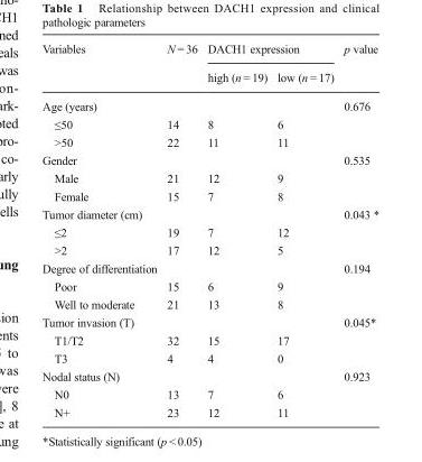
<table><thead><tr><td rowspan="2">Variables</td><td rowspan="2">N = 36</td><td colspan="2">DACH1 expression</td><td rowspan="2">p value</td></tr><tr><td>high (n = 19)</td><td>low (n = 17)</td></tr></thead><tbody><tr><td>Age (years)</td><td></td><td></td><td></td><td>0.676</td></tr><tr><td>≤50</td><td>14</td><td>8</td><td>6</td><td></td></tr><tr><td>&gt;50</td><td>22</td><td>11</td><td>11</td><td></td></tr><tr><td>Gender</td><td></td><td></td><td></td><td>0.535</td></tr><tr><td>Male</td><td>21</td><td>12</td><td>9</td><td></td></tr><tr><td>Female</td><td>15</td><td>7</td><td>8</td><td></td></tr><tr><td>Tumor diameter (cm)</td><td></td><td></td><td></td><td>0.043 *</td></tr><tr><td>≤2</td><td>19</td><td>7</td><td>12</td><td></td></tr><tr><td>&gt;2</td><td>17</td><td>12</td><td>5</td><td></td></tr><tr><td>Degree of differentiation</td><td></td><td></td><td></td><td>0.194</td></tr><tr><td>Poor</td><td>15</td><td>6</td><td>9</td><td></td></tr><tr><td>Well to moderate</td><td>21</td><td>13</td><td>8</td><td></td></tr><tr><td>Tumor invasion (T)</td><td></td><td></td><td></td><td>0.045*</td></tr><tr><td>T1/T2</td><td>32</td><td>15</td><td>17</td><td></td></tr><tr><td>T3</td><td>4</td><td>4</td><td>0</td><td></td></tr><tr><td>Nodal status (N)</td><td></td><td></td><td></td><td>0.923</td></tr><tr><td>N0</td><td>13</td><td>7</td><td>6</td><td></td></tr><tr><td>N+</td><td>23</td><td>12</td><td>11</td><td></td></tr></tbody></table>